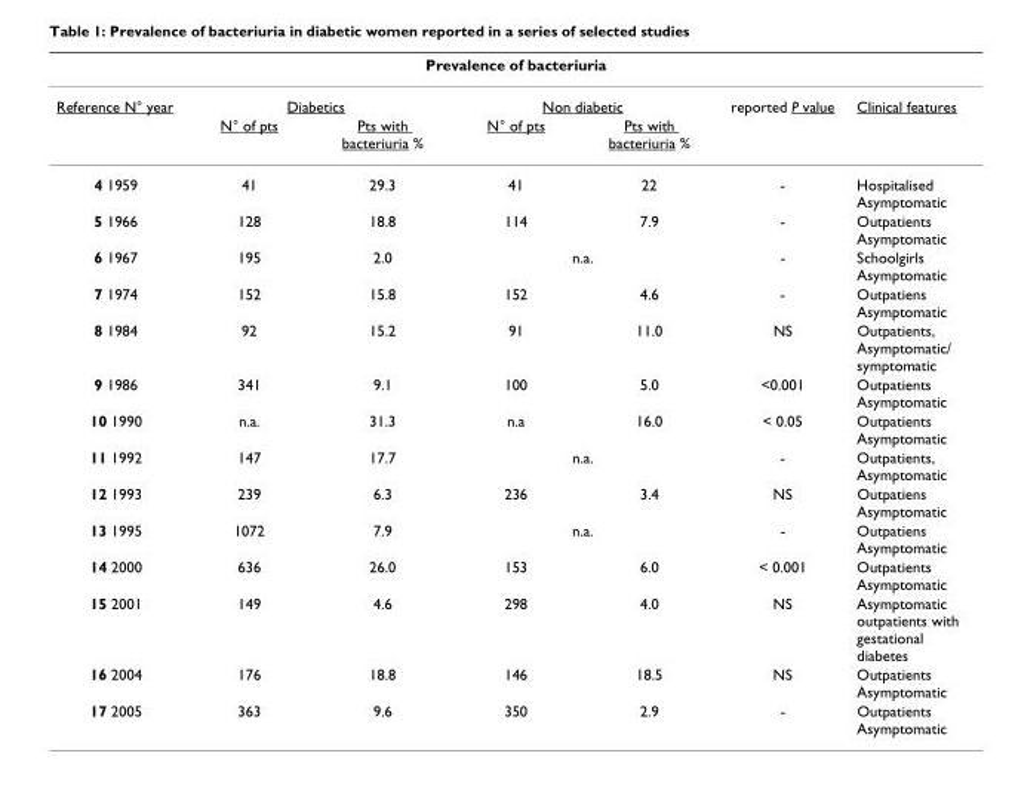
<table><thead><tr><td colspan="7">Prevalence of bacteriuria</td></tr><tr><td rowspan="2">Reference N° year</td><td colspan="2">Diabetics</td><td colspan="2">Non diabetic</td><td rowspan="2">reported P value</td><td rowspan="2">Clinical features</td></tr><tr><td>N° of pts</td><td>Pts with bacteriuria %</td><td>N° of pts</td><td>Pts with bacteriuria %</td></tr></thead><tbody><tr><td>4 1959</td><td>41</td><td>29.3</td><td>41</td><td>22</td><td>-</td><td>Hospitalised Asymptomatic</td></tr><tr><td>5 1966</td><td>128</td><td>18.8</td><td>114</td><td>7.9</td><td>-</td><td>Outpatients Asymptomatic</td></tr><tr><td>6 1967</td><td>195</td><td>2.0</td><td colspan="2">n.a.</td><td>-</td><td>Schoolgirls Asymptomatic</td></tr><tr><td>7 1974</td><td>152</td><td>15.8</td><td>152</td><td>4.6</td><td>-</td><td>Outpatiens Asymptomatic</td></tr><tr><td>8 1984</td><td>92</td><td>15.2</td><td>91</td><td>11.0</td><td>NS</td><td>Outpatients, Asymptomatic/ symptomatic</td></tr><tr><td>9 1986</td><td>341</td><td>9.1</td><td>100</td><td>5.0</td><td>&lt;0.001</td><td>Outpatients Asymptomatic</td></tr><tr><td>10 1990</td><td>n.a.</td><td>31.3</td><td>n.a</td><td>16.0</td><td>&lt; 0.05</td><td>Outpatients Asymptomatic</td></tr><tr><td>11 1992</td><td>147</td><td>17.7</td><td colspan="2">n.a.</td><td>-</td><td>Outpatients, Asymptomatic</td></tr><tr><td>12 1993</td><td>239</td><td>6.3</td><td>236</td><td>3.4</td><td>NS</td><td>Outpatiens Asymptomatic</td></tr><tr><td>13 1995</td><td>1072</td><td>7.9</td><td colspan="2">n.a.</td><td>-</td><td>Outpatiens Asymptomatic</td></tr><tr><td>14 2000</td><td>636</td><td>26.0</td><td>153</td><td>6.0</td><td>&lt; 0.001</td><td>Outpatients Asymptomatic</td></tr><tr><td>15 2001</td><td>149</td><td>4.6</td><td>298</td><td>4.0</td><td>NS</td><td>Asymptomatic outpatients with gestational diabetes</td></tr><tr><td>16 2004</td><td>176</td><td>18.8</td><td>146</td><td>18.5</td><td>NS</td><td>Outpatients Asymptomatic</td></tr><tr><td>17 2005</td><td>363</td><td>9.6</td><td>350</td><td>2.9</td><td>-</td><td>Outpatients Asymptomatic</td></tr></tbody></table>